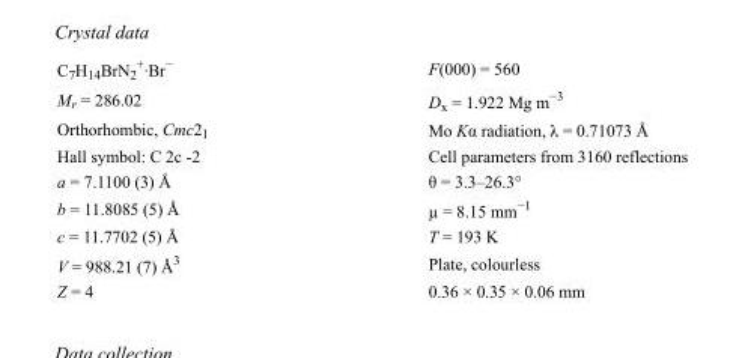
<table><tbody><tr><td>C<sub>7</sub>H<sub>14</sub>BrN<sub>2</sub> <sup>+</sup>·Br<sup>−</sup></td><td>F(000) = 560</td></tr><tr><td>M<sub>r</sub> = 286.02</td><td>D<sub>x</sub> = 1.922 Mg m<sup>−3</sup></td></tr><tr><td>Orthorhombic, Cmc2<sub>1</sub></td><td>Mo Kα radiation, λ = 0.71073 Å</td></tr><tr><td>Hall symbol: C 2c -2</td><td>Cell parameters from 3160 reflections</td></tr><tr><td>a = 7.1100 (3) Å</td><td>θ = 3.3–26.3°</td></tr><tr><td>b = 11.8085 (5) Å</td><td>µ = 8.15 mm<sup>−1</sup></td></tr><tr><td>c = 11.7702 (5) Å</td><td>T = 193 K</td></tr><tr><td>V = 988.21 (7) Å<sup>3</sup></td><td>Plate, colourless</td></tr><tr><td>Z = 4</td><td>0.36 × 0.35 × 0.06 mm</td></tr></tbody></table>